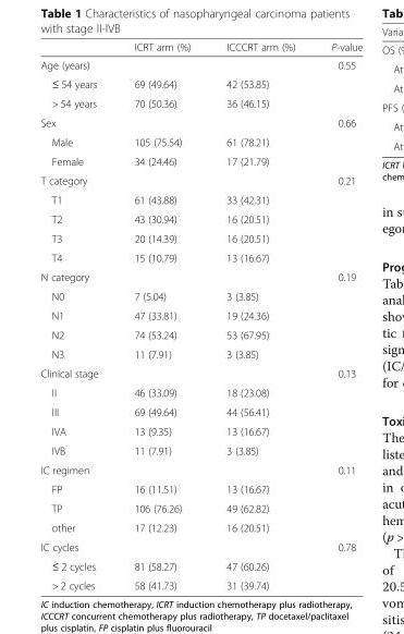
<table><thead><tr><td></td><td>ICRT arm (%)</td><td>ICCCRT arm (%)</td><td>P-value</td></tr></thead><tbody><tr><td>Age (years)</td><td></td><td></td><td>0.55</td></tr><tr><td>≤ 54 years</td><td>69 (49.64)</td><td>42 (53.85)</td><td></td></tr><tr><td>&gt; 54 years</td><td>70 (50.36)</td><td>36 (46.15)</td><td></td></tr><tr><td>Sex</td><td></td><td></td><td>0.66</td></tr><tr><td>Male</td><td>105 (75.54)</td><td>61 (78.21)</td><td></td></tr><tr><td>Female</td><td>34 (24.46)</td><td>17 (21.79)</td><td></td></tr><tr><td>T category</td><td></td><td></td><td>0.21</td></tr><tr><td>T1</td><td>61 (43.88)</td><td>33 (42.31)</td><td></td></tr><tr><td>T2</td><td>43 (30.94)</td><td>16 (20.51)</td><td></td></tr><tr><td>T3</td><td>20 (14.39)</td><td>16 (20.51)</td><td></td></tr><tr><td>T4</td><td>15 (10.79)</td><td>13 (16.67)</td><td></td></tr><tr><td>N category</td><td></td><td></td><td>0.19</td></tr><tr><td>N0</td><td>7 (5.04)</td><td>3 (3.85)</td><td></td></tr><tr><td>N1</td><td>47 (33.81)</td><td>19 (24.36)</td><td></td></tr><tr><td>N2</td><td>74 (53.24)</td><td>53 (67.95)</td><td></td></tr><tr><td>N3</td><td>11 (7.91)</td><td>3 (3.85)</td><td></td></tr><tr><td>Clinical stage</td><td></td><td></td><td>0.13</td></tr><tr><td>II</td><td>46 (33.09)</td><td>18 (23.08)</td><td></td></tr><tr><td>III</td><td>69 (49.64)</td><td>44 (56.41)</td><td></td></tr><tr><td>IVA</td><td>13 (9.35)</td><td>13 (16.67)</td><td></td></tr><tr><td>IVB</td><td>11 (7.91)</td><td>3 (3.85)</td><td></td></tr><tr><td>IC regimen</td><td></td><td></td><td>0.11</td></tr><tr><td>FP</td><td>16 (11.51)</td><td>13 (16.67)</td><td></td></tr><tr><td>TP</td><td>106 (76.26)</td><td>49 (62.82)</td><td></td></tr><tr><td>other</td><td>17 (12.23)</td><td>16 (20.51)</td><td></td></tr><tr><td>IC cycles</td><td></td><td></td><td>0.78</td></tr><tr><td>≤ 2 cycles</td><td>81 (58.27)</td><td>47 (60.26)</td><td></td></tr><tr><td>&gt; 2 cycles</td><td>58 (41.73)</td><td>31 (39.74)</td><td></td></tr></tbody></table>